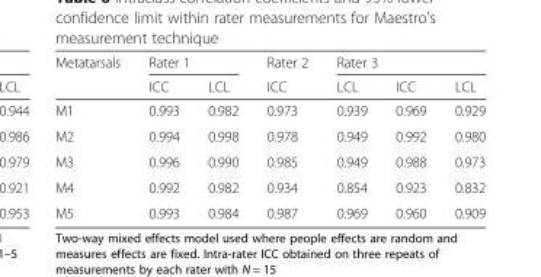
<table><thead><tr><td rowspan="2">Metatarsals</td><td colspan="2">Rater 1</td><td rowspan="2">Rater 2 ICC</td><td colspan="3">Rater 3</td></tr><tr><td>ICC</td><td>LCL</td><td>LCL</td><td>ICC</td><td>LCL</td></tr></thead><tbody><tr><td>M1</td><td>0.993</td><td>0.982</td><td>0.973</td><td>0.939</td><td>0.969</td><td>0.929</td></tr><tr><td>M2</td><td>0.994</td><td>0.998</td><td>0.978</td><td>0.949</td><td>0.992</td><td>0.980</td></tr><tr><td>M3</td><td>0.996</td><td>0.990</td><td>0.985</td><td>0.949</td><td>0.988</td><td>0.973</td></tr><tr><td>M4</td><td>0.992</td><td>0.982</td><td>0.934</td><td>0.854</td><td>0.923</td><td>0.832</td></tr><tr><td>M5</td><td>0.993</td><td>0.984</td><td>0.987</td><td>0.969</td><td>0.960</td><td>0.909</td></tr></tbody></table>